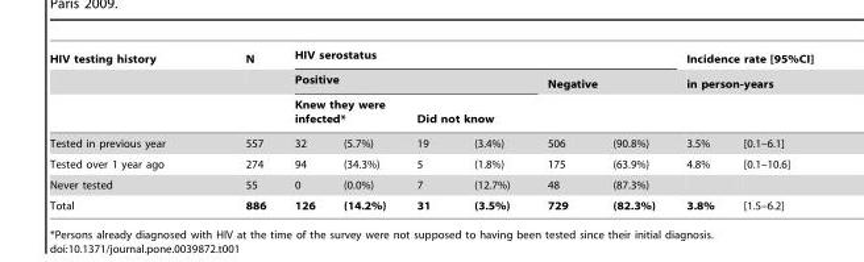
<table><thead><tr><td rowspan="4">HIV testing history Tested in previous year</td><td rowspan="4">N 557</td><td colspan="6">HIV serostatus</td><td rowspan="2" colspan="2">Incidence rate [95%CI] in person-years</td></tr><tr><td colspan="4">Positive</td><td colspan="2">Negative</td></tr><tr><td colspan="2">Knew they were infected*</td><td colspan="2">Did not know</td><td rowspan="2">506</td><td rowspan="2">(90.8%)</td><td rowspan="2">3.5%</td><td rowspan="2">[0.1–6.1]</td></tr><tr><td>32</td><td>(5.7%)</td><td>19</td><td>(3.4%)</td></tr></thead><tbody><tr><td>Tested over 1 year ago</td><td>274</td><td>94</td><td>(34.3%)</td><td>5</td><td>(1.8%)</td><td>175</td><td>(63.9%)</td><td>4.8%</td><td>[0.1–10.6]</td></tr><tr><td>Never tested</td><td>55</td><td>0</td><td>(0.0%)</td><td>7</td><td>(12.7%)</td><td>48</td><td>(87.3%)</td><td></td><td></td></tr><tr><td>Total</td><td>886</td><td>126</td><td>(14.2%)</td><td>31</td><td>(3.5%)</td><td>729</td><td>(82.3%)</td><td>3.8%</td><td>[1.5–6.2]</td></tr></tbody></table>